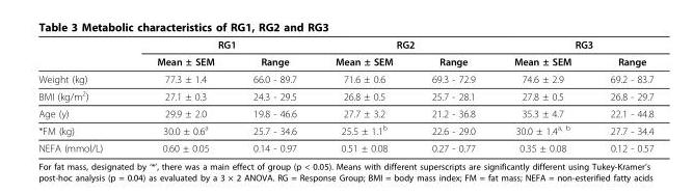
<table><thead><tr><td rowspan="2"></td><td colspan="2">RG1</td><td colspan="2">RG2</td><td colspan="2">RG3</td></tr><tr><td>Mean ± SEM</td><td>Range</td><td>Mean ± SEM</td><td>Range</td><td>Mean ± SEM</td><td>Range</td></tr></thead><tbody><tr><td>Weight (kg)</td><td>77.3 ± 1.4</td><td>66.0 - 89.7</td><td>71.6 ± 0.6</td><td>69.3 - 72.9</td><td>74.6 ± 2.9</td><td>69.2 - 83.7</td></tr><tr><td>BMI (kg/m<sup>2</sup>)</td><td>27.1 ± 0.3</td><td>24.3 - 29.5</td><td>26.8 ± 0.5</td><td>25.7 - 28.1</td><td>27.8 ± 0.5</td><td>26.8 - 29.7</td></tr><tr><td>Age (y)</td><td>29.9 ± 2.0</td><td>19.8 - 46.6</td><td>27.7 ± 3.2</td><td>21.2 - 36.8</td><td>35.3 ± 4.7</td><td>22.1 - 44.8</td></tr><tr><td>*FM (kg)</td><td>30.0 ± 0.6<sup>a</sup></td><td>25.7 - 34.6</td><td>25.5 ± 1.1<sup>b</sup></td><td>22.6 - 29.0</td><td>30.0 ± 1.4<sup>a, b</sup></td><td>27.7 - 34.4</td></tr><tr><td>NEFA (mmol/L)</td><td>0.60 ± 0.05</td><td>0.14 - 0.97</td><td>0.51 ± 0.08</td><td>0.27 - 0.77</td><td>0.35 ± 0.08</td><td>0.12 - 0.57</td></tr></tbody></table>